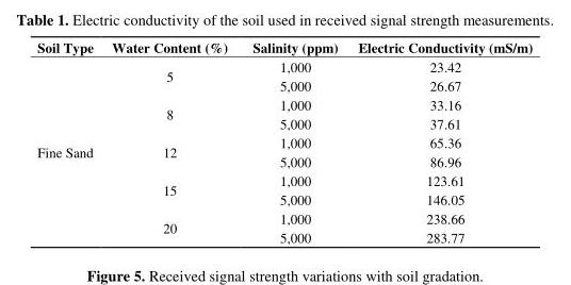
<table><thead><tr><td>Soil Type</td><td>Water Content (%)</td><td>Salinity (ppm)</td><td>Electric Conductivity (mS/m)</td></tr></thead><tbody><tr><td rowspan="10">Fine Sand</td><td rowspan="2">5</td><td>1,000</td><td>23.42</td></tr><tr><td>5,000</td><td>26.67</td></tr><tr><td rowspan="2">8</td><td>1,000</td><td>33.16</td></tr><tr><td>5,000</td><td>37.61</td></tr><tr><td rowspan="2">12</td><td>1,000</td><td>65.36</td></tr><tr><td>5,000</td><td>86.96</td></tr><tr><td rowspan="2">15</td><td>1,000</td><td>123.61</td></tr><tr><td>5,000</td><td>146.05</td></tr><tr><td rowspan="2">20</td><td>1,000</td><td>238.66</td></tr><tr><td>5,000</td><td>283.77</td></tr></tbody></table>